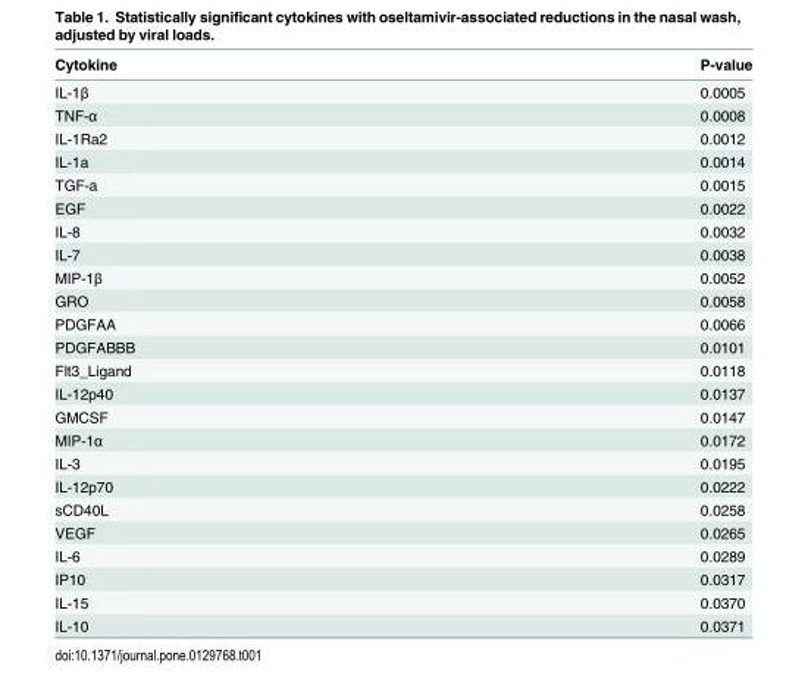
<table><thead><tr><td>Cytokine</td><td>P-value</td></tr></thead><tbody><tr><td>IL-1β</td><td>0.0005</td></tr><tr><td>TNF-α</td><td>0.0008</td></tr><tr><td>IL-1Ra2</td><td>0.0012</td></tr><tr><td>IL-1a</td><td>0.0014</td></tr><tr><td>TGF-a</td><td>0.0015</td></tr><tr><td>EGF</td><td>0.0022</td></tr><tr><td>IL-8</td><td>0.0032</td></tr><tr><td>IL-7</td><td>0.0038</td></tr><tr><td>MIP-1β</td><td>0.0052</td></tr><tr><td>GRO</td><td>0.0058</td></tr><tr><td>PDGFAA</td><td>0.0066</td></tr><tr><td>PDGFABBB</td><td>0.0101</td></tr><tr><td>Flt3_Ligand</td><td>0.0118</td></tr><tr><td>IL-12p40</td><td>0.0137</td></tr><tr><td>GMCSF</td><td>0.0147</td></tr><tr><td>MIP-1α</td><td>0.0172</td></tr><tr><td>IL-3</td><td>0.0195</td></tr><tr><td>IL-12p70</td><td>0.0222</td></tr><tr><td>sCD40L</td><td>0.0258</td></tr><tr><td>VEGF</td><td>0.0265</td></tr><tr><td>IL-6</td><td>0.0289</td></tr><tr><td>IP10</td><td>0.0317</td></tr><tr><td>IL-15</td><td>0.0370</td></tr><tr><td>IL-10</td><td>0.0371</td></tr></tbody></table>